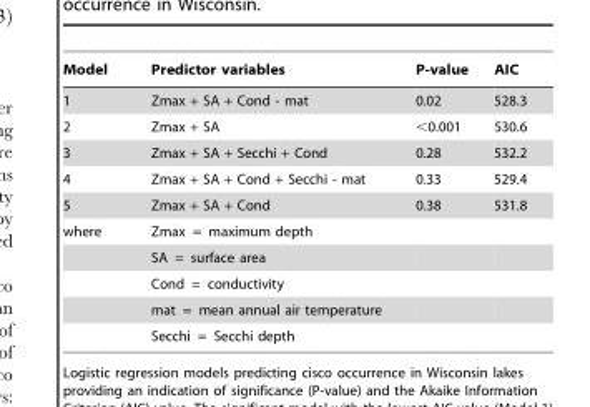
<table><thead><tr><td>Model</td><td>Predictor variables</td><td>P-value</td><td>AIC</td></tr></thead><tbody><tr><td>1</td><td>Zmax + SA + Cond - mat</td><td>0.02</td><td>528.3</td></tr><tr><td>2</td><td>Zmax + SA</td><td>&lt;0.001</td><td>530.6</td></tr><tr><td>3</td><td>Zmax + SA + Secchi + Cond</td><td>0.28</td><td>532.2</td></tr><tr><td>4</td><td>Zmax + SA + Cond + Secchi - mat</td><td>0.33</td><td>529.4</td></tr><tr><td>5</td><td>Zmax + SA + Cond</td><td>0.38</td><td>531.8</td></tr><tr><td rowspan="5">where</td><td>Zmax = maximum depth</td><td></td><td></td></tr><tr><td>SA = surface area</td><td></td><td></td></tr><tr><td>Cond = conductivity</td><td></td><td></td></tr><tr><td>mat = mean annual air temperature</td><td></td><td></td></tr><tr><td>Secchi = Secchi depth</td><td></td><td></td></tr></tbody></table>